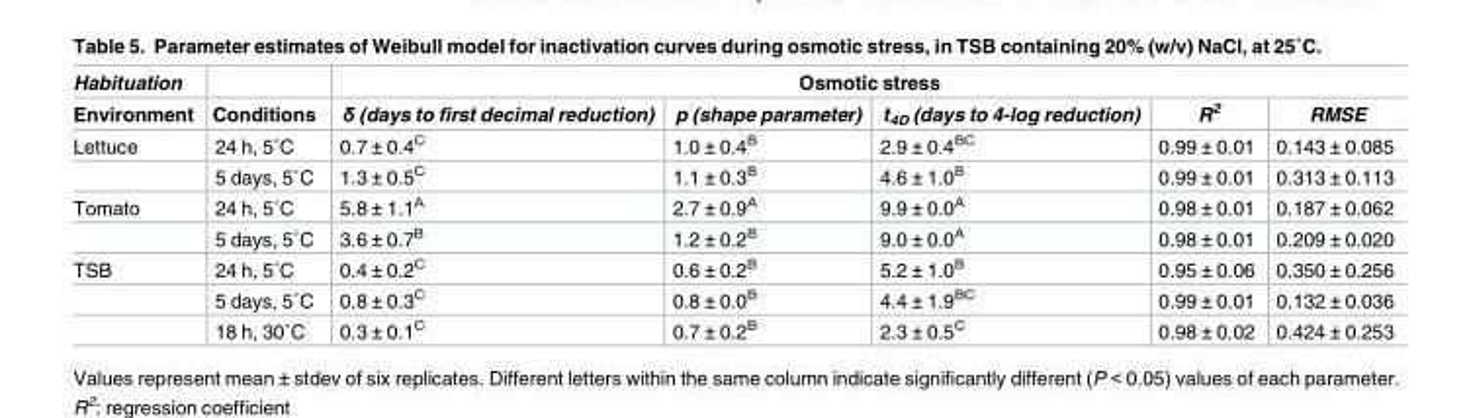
<table><thead><tr><td rowspan="2">Habituation Environment</td><td rowspan="2">Conditions</td><td colspan="5">Osmotic stress</td></tr><tr><td>δ (days to first decimal reduction)</td><td>p (shape parameter)</td><td>t<sub>4D</sub> (days to 4-log reduction)</td><td>R<sup>2</sup></td><td>RMSE</td></tr></thead><tbody><tr><td rowspan="2">Lettuce</td><td>24 h, 5˚C</td><td>0.7 ± 0.4<sup>C</sup></td><td>1.0 ± 0.4<sup>B</sup></td><td>2.9 ± 0.4<sup>BC</sup></td><td>0.99 ± 0.01</td><td>0.143 ± 0.085</td></tr><tr><td>5 days, 5˚C</td><td>1.3 ± 0.5<sup>C</sup></td><td>1.1 ± 0.3<sup>B</sup></td><td>4.6 ± 1.0<sup>B</sup></td><td>0.99 ± 0.01</td><td>0.313 ± 0.113</td></tr><tr><td rowspan="2">Tomato</td><td>24 h, 5˚C</td><td>5.8 ± 1.1<sup>Α</sup></td><td>2.7 ± 0.9<sup>A</sup></td><td>9.9 ± 0.0<sup>A</sup></td><td>0.98 ± 0.01</td><td>0.187 ± 0.062</td></tr><tr><td>5 days, 5˚C</td><td>3.6 ± 0.7<sup>Β</sup></td><td>1.2 ± 0.2<sup>B</sup></td><td>9.0 ± 0.0<sup>A</sup></td><td>0.98 ± 0.01</td><td>0.209 ± 0.020</td></tr><tr><td rowspan="3">TSB</td><td>24 h, 5˚C</td><td>0.4 ± 0.2<sup>C</sup></td><td>0.6 ± 0.2<sup>B</sup></td><td>5.2 ± 1.0<sup>B</sup></td><td>0.95 ± 0.06</td><td>0.350 ± 0.256</td></tr><tr><td>5 days, 5˚C</td><td>0.8 ± 0.3<sup>C</sup></td><td>0.8 ± 0.0<sup>B</sup></td><td>4.4 ± 1.9<sup>BC</sup></td><td>0.99 ± 0.01</td><td>0.132 ± 0.036</td></tr><tr><td>18 h, 30˚C</td><td>0.3 ± 0.1<sup>C</sup></td><td>0.7 ± 0.2<sup>B</sup></td><td>2.3 ± 0.5<sup>C</sup></td><td>0.98 ± 0.02</td><td>0.424 ± 0.253</td></tr></tbody></table>